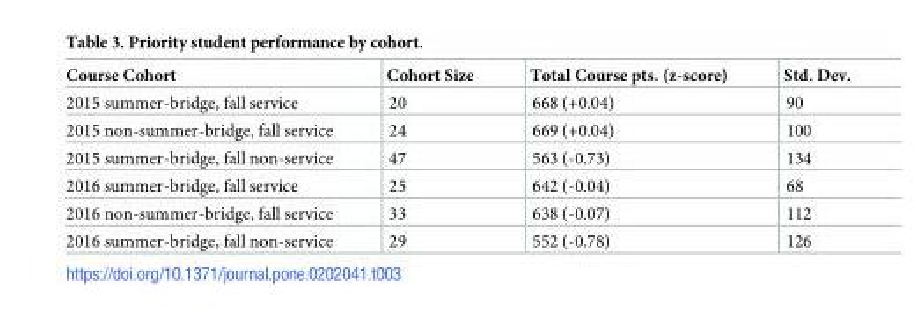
<table><thead><tr><td>Course Cohort</td><td>Cohort Size</td><td>Total Course pts. (z-score)</td><td>Std. Dev.</td></tr></thead><tbody><tr><td>2015 summer-bridge, fall service</td><td>20</td><td>668 (+0.04)</td><td>90</td></tr><tr><td>2015 non-summer-bridge, fall service</td><td>24</td><td>669 (+0.04)</td><td>100</td></tr><tr><td>2015 summer-bridge, fall non-service</td><td>47</td><td>563 (-0.73)</td><td>134</td></tr><tr><td>2016 summer-bridge, fall service</td><td>25</td><td>642 (-0.04)</td><td>68</td></tr><tr><td>2016 non-summer-bridge, fall service</td><td>33</td><td>638 (-0.07)</td><td>112</td></tr><tr><td>2016 summer-bridge, fall non-service</td><td>29</td><td>552 (-0.78)</td><td>126</td></tr></tbody></table>